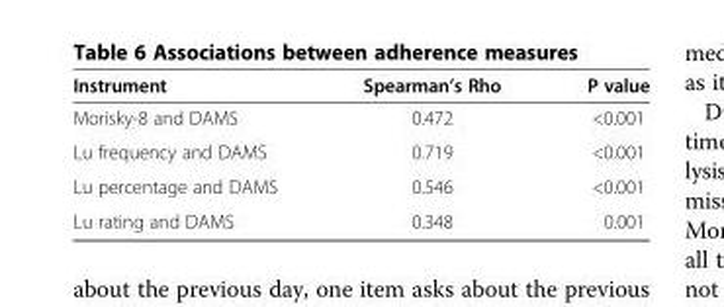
<table><thead><tr><td>Instrument</td><td>Spearman’s Rho</td><td>P value</td></tr></thead><tbody><tr><td>Morisky-8 and DAMS</td><td>0.472</td><td>&lt;0.001</td></tr><tr><td>Lu frequency and DAMS</td><td>0.719</td><td>&lt;0.001</td></tr><tr><td>Lu percentage and DAMS</td><td>0.546</td><td>&lt;0.001</td></tr><tr><td>Lu rating and DAMS</td><td>0.348</td><td>0.001</td></tr></tbody></table>